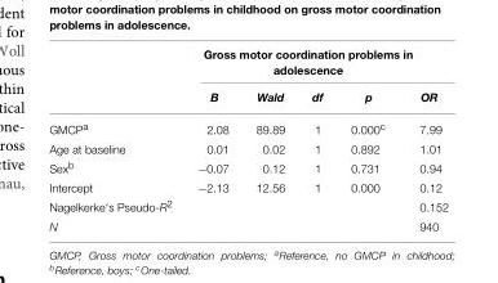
<table><thead><tr><td rowspan="2"></td><td colspan="5">Gross motor coordination problems in adolescence</td></tr><tr><td>B</td><td>Wald</td><td>df</td><td>p</td><td>OR</td></tr></thead><tbody><tr><td>GMCP<sup>a</sup></td><td>2.08</td><td>89.89</td><td>1</td><td>0.000<sup>c</sup></td><td>7.99</td></tr><tr><td>Age at baseline</td><td>0.01</td><td>0.02</td><td>1</td><td>0.892</td><td>1.01</td></tr><tr><td>Sex<sup>b</sup></td><td>−0.07</td><td>0.12</td><td>1</td><td>0.731</td><td>0.94</td></tr><tr><td>Intercept</td><td>−2.13</td><td>12.56</td><td>1</td><td>0.000</td><td>0.12</td></tr><tr><td>Nagelkerke‘s Pseudo-R<sup>2</sup></td><td></td><td></td><td></td><td></td><td>0.152</td></tr><tr><td>N</td><td></td><td></td><td></td><td></td><td>940</td></tr></tbody></table>